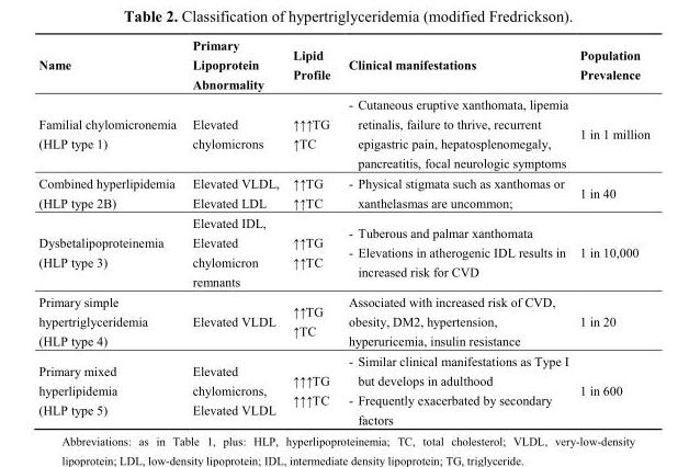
<table><thead><tr><td>Name</td><td>Primary Lipoprotein Abnormality</td><td>Lipid Profile</td><td>Clinical manifestations</td><td>Population Prevalence</td></tr></thead><tbody><tr><td>Familial chylomicronemia (HLP type 1)</td><td>Elevated chylomicrons</td><td>↑↑↑TG ↑TC</td><td>- Cutaneous eruptive xanthomata, lipemia retinalis, failure to thrive, recurrent epigastric pain, hepatosplenomegaly, pancreatitis, focal neurologic symptoms</td><td>1 in 1 million</td></tr><tr><td>Combined hyperlipidemia (HLP type 2B)</td><td>Elevated VLDL, Elevated LDL</td><td>↑↑TG ↑↑TC</td><td>- Physical stigmata such as xanthomas or xanthelasmas are uncommon;</td><td>1 in 40</td></tr><tr><td>Dysbetalipoproteinemia (HLP type 3)</td><td>Elevated IDL, Elevated chylomicron remnants</td><td>↑↑TG ↑↑TC</td><td>- Tuberous and palmar xanthomata - Elevations in atherogenic IDL results in increased risk for CVD</td><td>1 in 10,000</td></tr><tr><td>Primary simple hypertriglyceridemia (HLP type 4)</td><td>Elevated VLDL</td><td>↑↑TG ↑TC</td><td>Associated with increased risk of CVD, obesity, DM2, hypertension, hyperuricemia, insulin resistance</td><td>1 in 20</td></tr><tr><td>Primary mixed hyperlipidemia (HLP type 5)</td><td>Elevated chylomicrons, Elevated VLDL</td><td>↑↑↑TG ↑↑↑TC</td><td>- Similar clinical manifestations as Type I but develops in adulthood - Frequently exacerbated by secondary factors</td><td>1 in 600</td></tr></tbody></table>